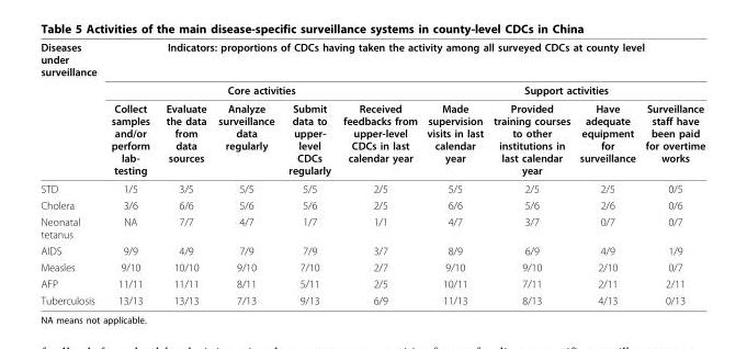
<table><thead><tr><td rowspan="3">Diseases under surveillance</td><td colspan="9">Indicators: proportions of CDCs having taken the activity among all surveyed CDCs at county level</td></tr><tr><td colspan="5">Core activities</td><td colspan="4">Support activities</td></tr><tr><td>Collect samples and/or perform lab- testing</td><td>Evaluate the data from data sources</td><td>Analyze surveillance data regularly</td><td>Submit data to upper- level CDCs regularly</td><td>Received feedbacks from upper-level CDCs in last calendar year</td><td>Made supervision visits in last calendar year</td><td>Provided training courses to other institutions in last calendar year</td><td>Have adequate equipment for surveillance</td><td>Surveillance staff have been paid for overtime works</td></tr></thead><tbody><tr><td>STD</td><td>1/5</td><td>3/5</td><td>5/5</td><td>5/5</td><td>2/5</td><td>5/5</td><td>2/5</td><td>2/5</td><td>0/5</td></tr><tr><td>Cholera</td><td>3/6</td><td>6/6</td><td>5/6</td><td>5/6</td><td>2/5</td><td>6/6</td><td>5/6</td><td>2/6</td><td>0/6</td></tr><tr><td>Neonatal tetanus</td><td>NA</td><td>7/7</td><td>4/7</td><td>1/7</td><td>1/1</td><td>4/7</td><td>3/7</td><td>0/7</td><td>0/7</td></tr><tr><td>AIDS</td><td>9/9</td><td>4/9</td><td>7/9</td><td>7/9</td><td>3/7</td><td>8/9</td><td>6/9</td><td>4/9</td><td>1/9</td></tr><tr><td>Measles</td><td>9/10</td><td>10/10</td><td>9/10</td><td>7/10</td><td>2/7</td><td>9/10</td><td>9/10</td><td>2/10</td><td>0/7</td></tr><tr><td>AFP</td><td>11/11</td><td>11/11</td><td>8/11</td><td>5/11</td><td>2/5</td><td>10/11</td><td>7/11</td><td>2/11</td><td>2/11</td></tr><tr><td>Tuberculosis</td><td>13/13</td><td>13/13</td><td>7/13</td><td>9/13</td><td>6/9</td><td>11/13</td><td>8/13</td><td>4/13</td><td>0/13</td></tr></tbody></table>